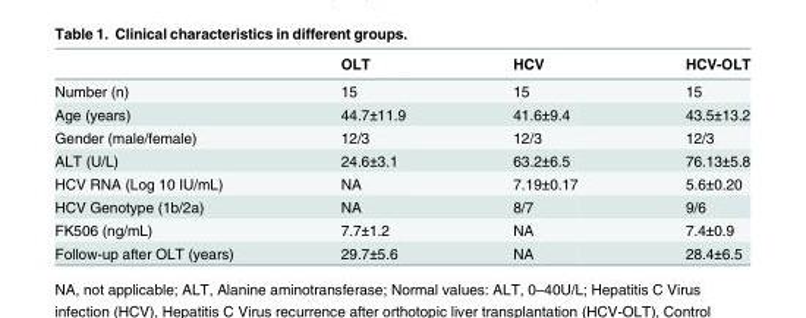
<table><thead><tr><td></td><td>OLT</td><td>HCV</td><td>HCV-OLT</td></tr></thead><tbody><tr><td>Number (n)</td><td>15</td><td>15</td><td>15</td></tr><tr><td>Age (years)</td><td>44.7±11.9</td><td>41.6±9.4</td><td>43.5±13.2</td></tr><tr><td>Gender (male/female)</td><td>12/3</td><td>12/3</td><td>12/3</td></tr><tr><td>ALT (U/L)</td><td>24.6±3.1</td><td>63.2±6.5</td><td>76.13±5.8</td></tr><tr><td>HCV RNA (Log 10 IU/mL)</td><td>NA</td><td>7.19±0.17</td><td>5.6±0.20</td></tr><tr><td>HCV Genotype (1b/2a)</td><td>NA</td><td>8/7</td><td>9/6</td></tr><tr><td>FK506 (ng/mL)</td><td>7.7±1.2</td><td>NA</td><td>7.4±0.9</td></tr><tr><td>Follow-up after OLT (years)</td><td>29.7±5.6</td><td>NA</td><td>28.4±6.5</td></tr></tbody></table>